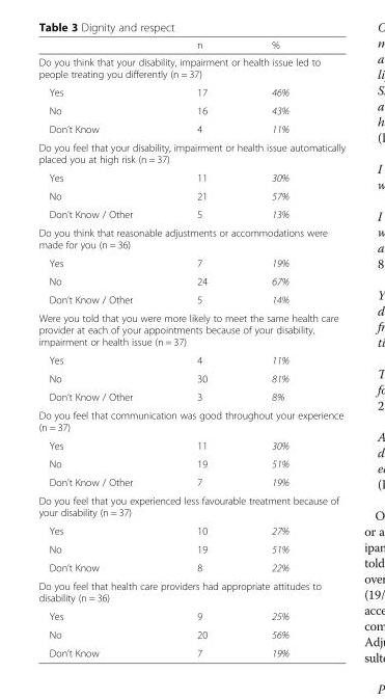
<table><thead><tr><td></td><td>n</td><td>%</td></tr></thead><tbody><tr><td colspan="3">Do you think that your disability, impairment or health issue led to people treating you differently (n = 37)</td></tr><tr><td>Yes</td><td>17</td><td>46%</td></tr><tr><td>No</td><td>16</td><td>43%</td></tr><tr><td>Don’t Know</td><td>4</td><td>11%</td></tr><tr><td colspan="3">Do you feel that your disability, impairment or health issue automatically placed you at high risk (n = 37)</td></tr><tr><td>Yes</td><td>11</td><td>30%</td></tr><tr><td>No</td><td>21</td><td>57%</td></tr><tr><td>Don’t Know / Other</td><td>5</td><td>13%</td></tr><tr><td colspan="3">Do you think that reasonable adjustments or accommodations were made for you (n = 36)</td></tr><tr><td>Yes</td><td>7</td><td>19%</td></tr><tr><td>No</td><td>24</td><td>67%</td></tr><tr><td>Don’t Know / Other</td><td>5</td><td>14%</td></tr><tr><td colspan="3">Were you told that you were more likely to meet the same health care provider at each of your appointments because of your disability, impairment or health issue (n = 37)</td></tr><tr><td>Yes</td><td>4</td><td>11%</td></tr><tr><td>No</td><td>30</td><td>81%</td></tr><tr><td>Don’t Know / Other</td><td>3</td><td>8%</td></tr><tr><td colspan="3">Do you feel that communication was good throughout your experience (n = 37)</td></tr><tr><td>Yes</td><td>11</td><td>30%</td></tr><tr><td>No</td><td>19</td><td>51%</td></tr><tr><td>Don’t Know / Other</td><td>7</td><td>19%</td></tr><tr><td colspan="3">Do you feel that you experienced less favourable treatment because of your disability (n = 37)</td></tr><tr><td>Yes</td><td>10</td><td>27%</td></tr><tr><td>No</td><td>19</td><td>51%</td></tr><tr><td>Don’t Know</td><td>8</td><td>22%</td></tr><tr><td colspan="3">Do you feel that health care providers had appropriate attitudes to disability (n = 36)</td></tr><tr><td>Yes</td><td>9</td><td>25%</td></tr><tr><td>No</td><td>20</td><td>56%</td></tr><tr><td>Don’t Know</td><td>7</td><td>19%</td></tr></tbody></table>